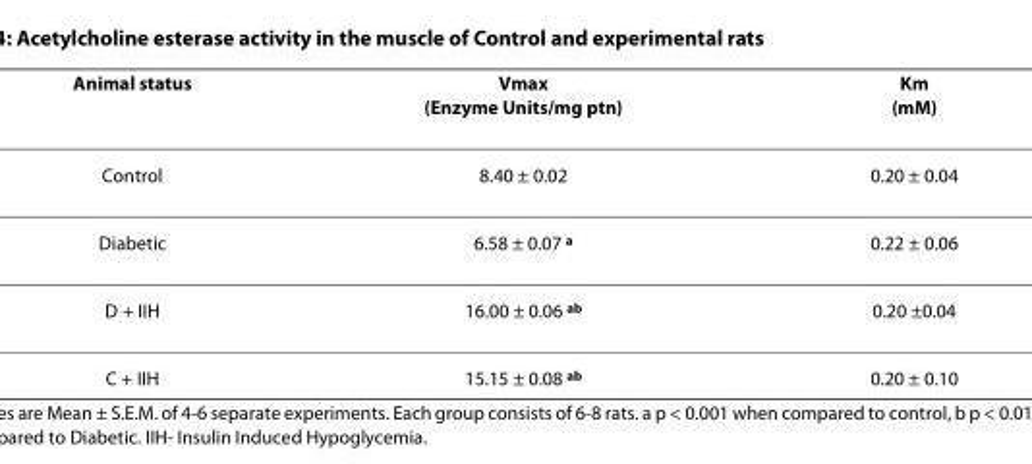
<table><thead><tr><td>Animal status</td><td>Vmax (Enzyme Units/mg ptn)</td><td>Km (mM)</td></tr></thead><tbody><tr><td>Control</td><td>8.40 ± 0.02</td><td>0.20 ± 0.04</td></tr><tr><td>Diabetic</td><td>6.58 ± 0.07 <sup>a</sup></td><td>0.22 ± 0.06</td></tr><tr><td>D + IIH</td><td>16.00 ± 0.06 <sup>ab</sup></td><td>0.20 ±0.04</td></tr><tr><td>C + IIH</td><td>15.15 ± 0.08 <sup>ab</sup></td><td>0.20 ± 0.10</td></tr></tbody></table>